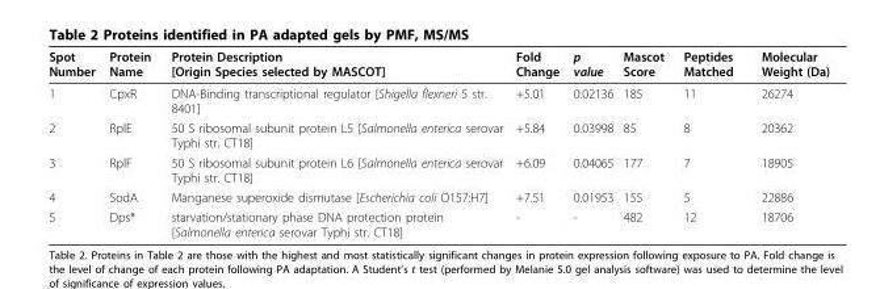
<table><thead><tr><td>Spot Number</td><td>Protein Name</td><td>Protein Description [Origin Species selected by MASCOT]</td><td>Fold Change</td><td>p value</td><td>Mascot Score</td><td>Peptides Matched</td><td>Molecular Weight (Da)</td></tr></thead><tbody><tr><td>1</td><td>CpxR</td><td>DNA-Binding transcriptional regulator [Shigella flexneri 5 str. 8401]</td><td>+5.01</td><td>0.02136</td><td>185</td><td>11</td><td>26274</td></tr><tr><td>2</td><td>RplE</td><td>50 S ribosomal subunit protein L5 [Salmonella enterica serovar Typhi str. CT18]</td><td>+5.84</td><td>0.03998</td><td>85</td><td>8</td><td>20362</td></tr><tr><td>3</td><td>RplF</td><td>50 S ribosomal subunit protein L6 [Salmonella enterica serovar Typhi str. CT18]</td><td>+6.09</td><td>0.04065</td><td>177</td><td>7</td><td>18905</td></tr><tr><td>4</td><td>SodA</td><td>Manganese superoxide dismutase [Escherichia coli O157:H7]</td><td>+7.51</td><td>0.01953</td><td>155</td><td>5</td><td>22886</td></tr><tr><td>5</td><td>Dps*</td><td>starvation/stationary phase DNA protection protein [Salmonella enterica serovar Typhi str. CT18]</td><td>-</td><td>-</td><td>482</td><td>12</td><td>18706</td></tr></tbody></table>